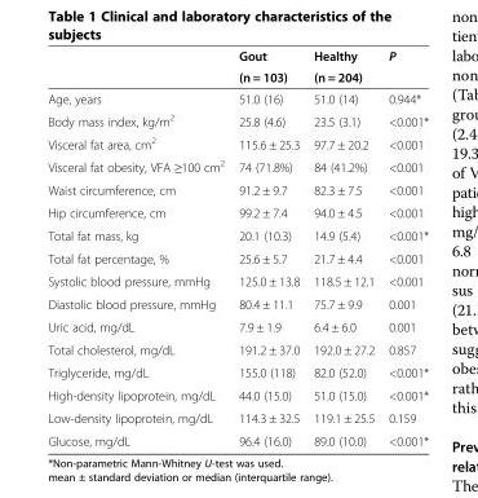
<table><thead><tr><td rowspan="2"></td><td rowspan="2">Gout (n = 103)</td><td rowspan="2">Healthy (n = 204)</td><td rowspan="2">P</td></tr><tr></tr></thead><tbody><tr><td>Age, years</td><td>51.0 (16)</td><td>51.0 (14)</td><td>0.944*</td></tr><tr><td>Body mass index, kg/m<sup>2</sup></td><td>25.8 (4.6)</td><td>23.5 (3.1)</td><td>&lt;0.001*</td></tr><tr><td>Visceral fat area, cm<sup>2</sup></td><td>115.6 ± 25.3</td><td>97.7 ± 20.2</td><td>&lt;0.001</td></tr><tr><td>Visceral fat obesity, VFA ≥100 cm<sup>2</sup></td><td>74 (71.8%)</td><td>84 (41.2%)</td><td>&lt;0.001</td></tr><tr><td>Waist circumference, cm</td><td>91.2 ± 9.7</td><td>82.3 ± 7.5</td><td>&lt;0.001</td></tr><tr><td>Hip circumference, cm</td><td>99.2 ± 7.4</td><td>94.0 ± 4.5</td><td>&lt;0.001</td></tr><tr><td>Total fat mass, kg</td><td>20.1 (10.3)</td><td>14.9 (5.4)</td><td>&lt;0.001*</td></tr><tr><td>Total fat percentage, %</td><td>25.6 ± 5.7</td><td>21.7 ± 4.4</td><td>&lt;0.001</td></tr><tr><td>Systolic blood pressure, mmHg</td><td>125.0 ± 13.8</td><td>118.5 ± 12.1</td><td>&lt;0.001</td></tr><tr><td>Diastolic blood pressure, mmHg</td><td>80.4 ± 11.1</td><td>75.7 ± 9.9</td><td>0.001</td></tr><tr><td>Uric acid, mg/dL</td><td>7.9 ± 1.9</td><td>6.4 ± 6.0</td><td>0.001</td></tr><tr><td>Total cholesterol, mg/dL</td><td>191.2 ± 37.0</td><td>192.0 ± 27.2</td><td>0.857</td></tr><tr><td>Triglyceride, mg/dL</td><td>155.0 (118)</td><td>82.0 (52.0)</td><td>&lt;0.001*</td></tr><tr><td>High-density lipoprotein, mg/dL</td><td>44.0 (15.0)</td><td>51.0 (15.0)</td><td>&lt;0.001*</td></tr><tr><td>Low-density lipoprotein, mg/dL</td><td>114.3 ± 32.5</td><td>119.1 ± 25.5</td><td>0.159</td></tr><tr><td>Glucose, mg/dL</td><td>96.4 (16.0)</td><td>89.0 (10.0)</td><td>&lt;0.001*</td></tr></tbody></table>